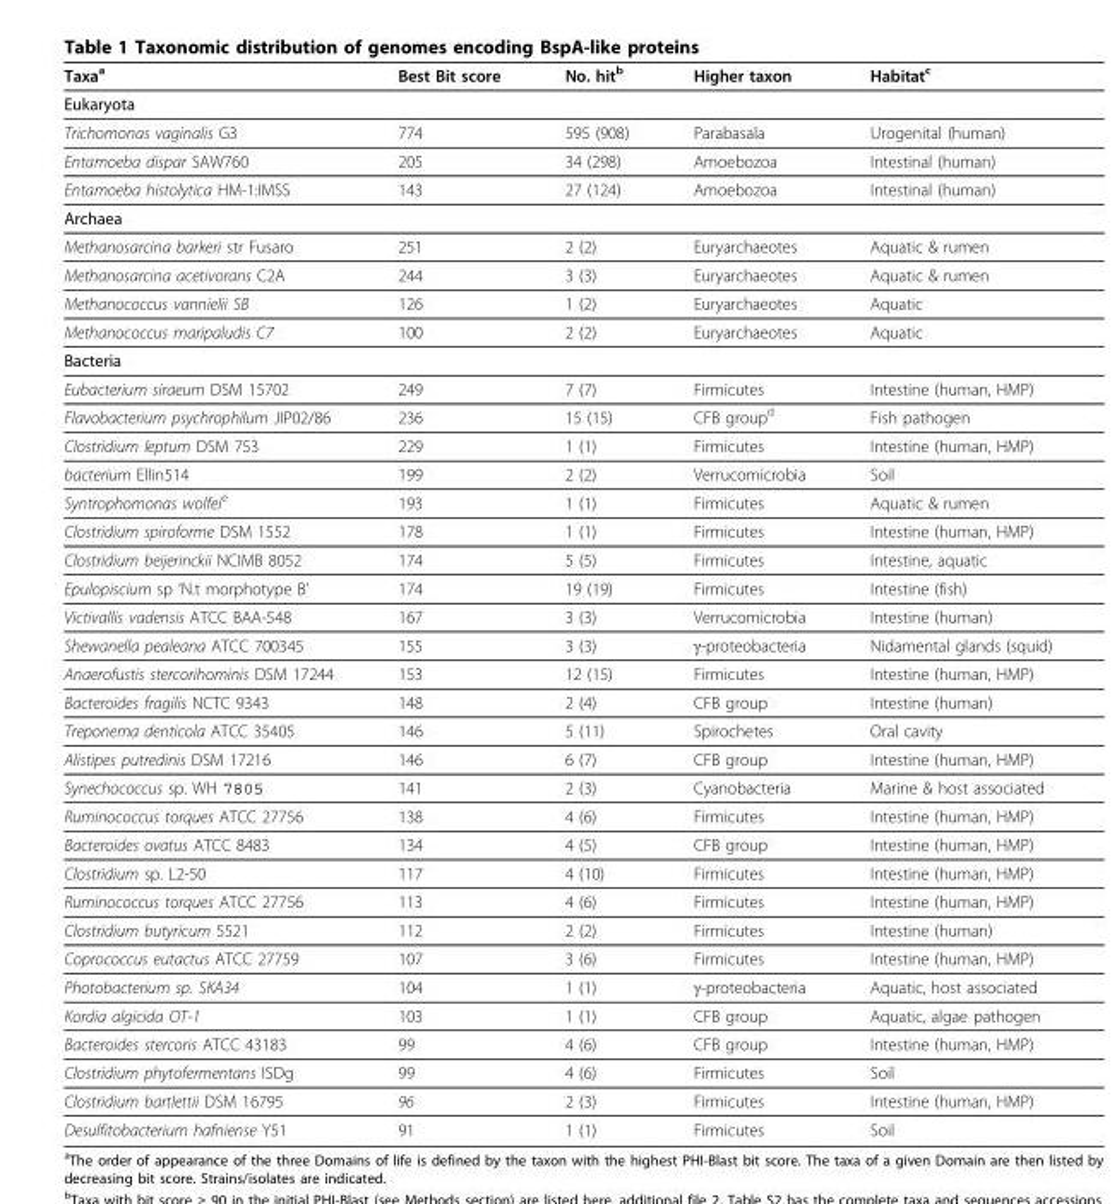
<table><thead><tr><td>Taxa<sup>a</sup></td><td>Best Bit score</td><td>No. hit<sup>b</sup></td><td>Higher taxon</td><td>Habitat<sup>c</sup></td></tr></thead><tbody><tr><td colspan="5">Eukaryota</td></tr><tr><td>Trichomonas vaginalis G3</td><td>774</td><td>595 (908)</td><td>Parabasala</td><td>Urogenital (human)</td></tr><tr><td>Entamoeba dispar SAW760</td><td>205</td><td>34 (298)</td><td>Amoebozoa</td><td>Intestinal (human)</td></tr><tr><td>Entamoeba histolytica HM-1:IMSS</td><td>143</td><td>27 (124)</td><td>Amoebozoa</td><td>Intestinal (human)</td></tr><tr><td colspan="5">Archaea</td></tr><tr><td>Methanosarcina barkeri str Fusaro</td><td>251</td><td>2 (2)</td><td>Euryarchaeotes</td><td>Aquatic &amp; rumen</td></tr><tr><td>Methanosarcina acetivorans C2A</td><td>244</td><td>3 (3)</td><td>Euryarchaeotes</td><td>Aquatic &amp; rumen</td></tr><tr><td>Methanococcus vannielii SB</td><td>126</td><td>1 (2)</td><td>Euryarchaeotes</td><td>Aquatic</td></tr><tr><td>Methanococcus maripaludis C7</td><td>100</td><td>2 (2)</td><td>Euryarchaeotes</td><td>Aquatic</td></tr><tr><td colspan="5">Bacteria</td></tr><tr><td>Eubacterium siraeum DSM 15702</td><td>249</td><td>7 (7)</td><td>Firmicutes</td><td>Intestine (human, HMP)</td></tr><tr><td>Flavobacterium psychrophilum JIP02/86</td><td>236</td><td>15 (15)</td><td>CFB group<sup>d</sup></td><td>Fish pathogen</td></tr><tr><td>Clostridium leptum DSM 753</td><td>229</td><td>1 (1)</td><td>Firmicutes</td><td>Intestine (human, HMP)</td></tr><tr><td>bacterium Ellin514</td><td>199</td><td>2 (2)</td><td>Verrucomicrobia</td><td>Soil</td></tr><tr><td>Syntrophomonas wolfei<sup>e</sup></td><td>193</td><td>1 (1)</td><td>Firmicutes</td><td>Aquatic &amp; rumen</td></tr><tr><td>Clostridium spiroforme DSM 1552</td><td>178</td><td>1 (1)</td><td>Firmicutes</td><td>Intestine (human, HMP)</td></tr><tr><td>Clostridium beijerinckii NCIMB 8052</td><td>174</td><td>5 (5)</td><td>Firmicutes</td><td>Intestine, aquatic</td></tr><tr><td>Epulopiscium sp ‘N.t morphotype B’</td><td>174</td><td>19 (19)</td><td>Firmicutes</td><td>Intestine (fish)</td></tr><tr><td>Victivallis vadensis ATCC BAA-548</td><td>167</td><td>3 (3)</td><td>Verrucomicrobia</td><td>Intestine (human)</td></tr><tr><td>Shewanella pealeana ATCC 700345</td><td>155</td><td>3 (3)</td><td>γ-proteobacteria</td><td>Nidamental glands (squid)</td></tr><tr><td>Anaerofustis stercorihominis DSM 17244</td><td>153</td><td>12 (15)</td><td>Firmicutes</td><td>Intestine (human, HMP)</td></tr><tr><td>Bacteroides fragilis NCTC 9343</td><td>148</td><td>2 (4)</td><td>CFB group</td><td>Intestine (human)</td></tr><tr><td>Treponema denticola ATCC 35405</td><td>146</td><td>5 (11)</td><td>Spirochetes</td><td>Oral cavity</td></tr><tr><td>Alistipes putredinis DSM 17216</td><td>146</td><td>6 (7)</td><td>CFB group</td><td>Intestine (human, HMP)</td></tr><tr><td>Synechococcus sp. WH 7805</td><td>141</td><td>2 (3)</td><td>Cyanobacteria</td><td>Marine &amp; host associated</td></tr><tr><td>Ruminococcus torques ATCC 27756</td><td>138</td><td>4 (6)</td><td>Firmicutes</td><td>Intestine (human, HMP)</td></tr><tr><td>Bacteroides ovatus ATCC 8483</td><td>134</td><td>4 (5)</td><td>CFB group</td><td>Intestine (human, HMP)</td></tr><tr><td>Clostridium sp. L2-50</td><td>117</td><td>4 (10)</td><td>Firmicutes</td><td>Intestine (human, HMP)</td></tr><tr><td>Ruminococcus torques ATCC 27756</td><td>113</td><td>4 (6)</td><td>Firmicutes</td><td>Intestine (human, HMP)</td></tr><tr><td>Clostridium butyricum 5521</td><td>112</td><td>2 (2)</td><td>Firmicutes</td><td>Intestine (human)</td></tr><tr><td>Coprococcus eutactus ATCC 27759</td><td>107</td><td>3 (6)</td><td>Firmicutes</td><td>Intestine (human, HMP)</td></tr><tr><td>Photobacterium sp. SKA34</td><td>104</td><td>1 (1)</td><td>γ-proteobacteria</td><td>Aquatic, host associated</td></tr><tr><td>Kordia algicida OT-1</td><td>103</td><td>1 (1)</td><td>CFB group</td><td>Aquatic, algae pathogen</td></tr><tr><td>Bacteroides stercoris ATCC 43183</td><td>99</td><td>4 (6)</td><td>CFB group</td><td>Intestine (human, HMP)</td></tr><tr><td>Clostridium phytofermentans ISDg</td><td>99</td><td>4 (6)</td><td>Firmicutes</td><td>Soil</td></tr><tr><td>Clostridium bartlettii DSM 16795</td><td>96</td><td>2 (3)</td><td>Firmicutes</td><td>Intestine (human, HMP)</td></tr><tr><td>Desulfitobacterium hafniense Y51</td><td>91</td><td>1 (1)</td><td>Firmicutes</td><td>Soil</td></tr></tbody></table>